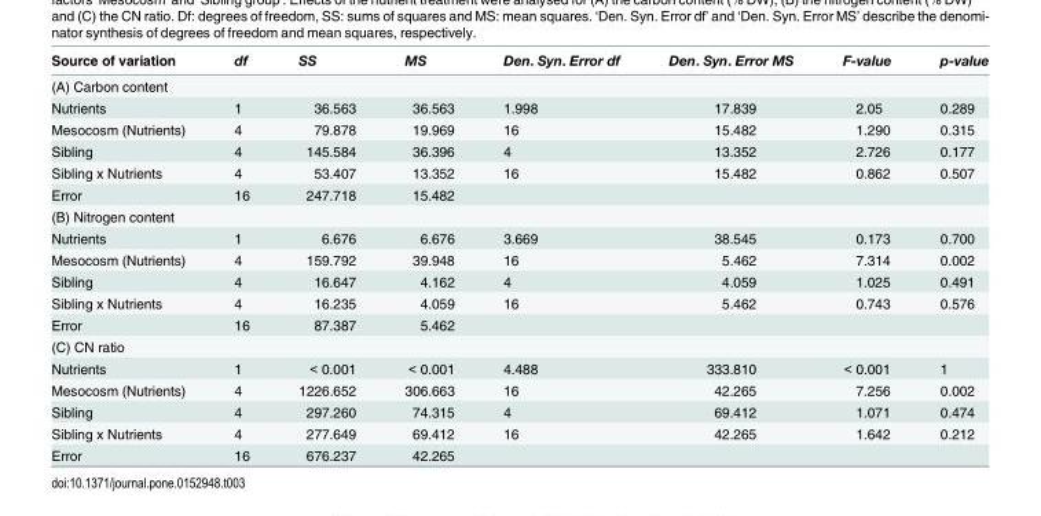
<table><thead><tr><td>Source of variation</td><td>df</td><td>SS</td><td>MS</td><td>Den. Syn. Error df</td><td>Den. Syn. Error MS</td><td>F-value</td><td>p-value</td></tr></thead><tbody><tr><td colspan="8">(A) Carbon content</td></tr><tr><td>Nutrients</td><td>1</td><td>36.563</td><td>36.563</td><td>1.998</td><td>17.839</td><td>2.05</td><td>0.289</td></tr><tr><td>Mesocosm (Nutrients)</td><td>4</td><td>79.878</td><td>19.969</td><td>16</td><td>15.482</td><td>1.290</td><td>0.315</td></tr><tr><td>Sibling</td><td>4</td><td>145.584</td><td>36.396</td><td>4</td><td>13.352</td><td>2.726</td><td>0.177</td></tr><tr><td>Sibling x Nutrients</td><td>4</td><td>53.407</td><td>13.352</td><td>16</td><td>15.482</td><td>0.862</td><td>0.507</td></tr><tr><td>Error</td><td>16</td><td>247.718</td><td>15.482</td><td></td><td></td><td></td><td></td></tr><tr><td colspan="8">(B) Nitrogen content</td></tr><tr><td>Nutrients</td><td>1</td><td>6.676</td><td>6.676</td><td>3.669</td><td>38.545</td><td>0.173</td><td>0.700</td></tr><tr><td>Mesocosm (Nutrients)</td><td>4</td><td>159.792</td><td>39.948</td><td>16</td><td>5.462</td><td>7.314</td><td>0.002</td></tr><tr><td>Sibling</td><td>4</td><td>16.647</td><td>4.162</td><td>4</td><td>4.059</td><td>1.025</td><td>0.491</td></tr><tr><td>Sibling x Nutrients</td><td>4</td><td>16.235</td><td>4.059</td><td>16</td><td>5.462</td><td>0.743</td><td>0.576</td></tr><tr><td>Error</td><td>16</td><td>87.387</td><td>5.462</td><td></td><td></td><td></td><td></td></tr><tr><td colspan="8">(C) CN ratio</td></tr><tr><td>Nutrients</td><td>1</td><td>&lt; 0.001</td><td>&lt; 0.001</td><td>4.488</td><td>333.810</td><td>&lt; 0.001</td><td>1</td></tr><tr><td>Mesocosm (Nutrients)</td><td>4</td><td>1226.652</td><td>306.663</td><td>16</td><td>42.265</td><td>7.256</td><td>0.002</td></tr><tr><td>Sibling</td><td>4</td><td>297.260</td><td>74.315</td><td>4</td><td>69.412</td><td>1.071</td><td>0.474</td></tr><tr><td>Sibling x Nutrients</td><td>4</td><td>277.649</td><td>69.412</td><td>16</td><td>42.265</td><td>1.642</td><td>0.212</td></tr><tr><td>Error</td><td>16</td><td>676.237</td><td>42.265</td><td></td><td></td><td></td><td></td></tr></tbody></table>